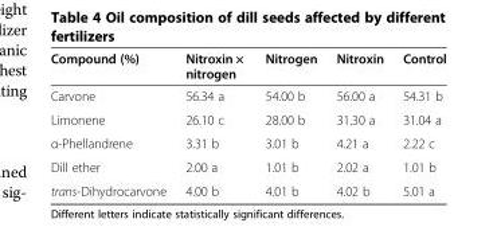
<table><thead><tr><td>Compound (%)</td><td>Nitroxin × nitrogen</td><td>Nitrogen</td><td>Nitroxin</td><td>Control</td></tr></thead><tbody><tr><td>Carvone</td><td>56.34 a</td><td>54.00 b</td><td>56.00 a</td><td>54.31 b</td></tr><tr><td>Limonene</td><td>26.10 c</td><td>28.00 b</td><td>31.30 a</td><td>31.04 a</td></tr><tr><td>α-Phellandrene</td><td>3.31 b</td><td>3.01 b</td><td>4.21 a</td><td>2.22 c</td></tr><tr><td>Dill ether</td><td>2.00 a</td><td>1.01 b</td><td>2.02 a</td><td>1.01 b</td></tr><tr><td>trans-Dihydrocarvone</td><td>4.00 b</td><td>4.01 b</td><td>4.02 b</td><td>5.01 a</td></tr></tbody></table>